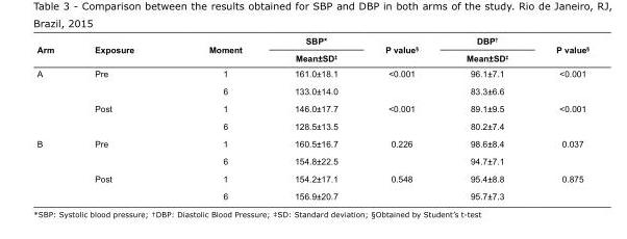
<table><tbody><tr><td rowspan="2">Arm</td><td rowspan="2">Exposure</td><td rowspan="2">Moment</td><td>SBP*</td><td rowspan="2">P value<sup>§</sup></td><td>DBP<sup>†</sup></td><td rowspan="2">P value<sup>§</sup></td></tr><tr><td>Mean±SD<sup>‡</sup></td><td>Mean±SD<sup>‡</sup></td></tr><tr><td rowspan="4">A</td><td rowspan="2">Pre</td><td>1</td><td>161.0±18.1</td><td rowspan="2">&lt;0.001</td><td>96.1±7.1</td><td rowspan="2">&lt;0.001</td></tr><tr><td>6</td><td>133.0±14.0</td><td>83.3±6.6</td></tr><tr><td rowspan="2">Post</td><td>1</td><td>146.0±17.7</td><td rowspan="2">&lt;0.001</td><td>89.1±9.5</td><td rowspan="2">&lt;0.001</td></tr><tr><td>6</td><td>128.5±13.5</td><td>80.2±7.4</td></tr><tr><td rowspan="4">B</td><td rowspan="2">Pre</td><td>1</td><td>160.5±16.7</td><td rowspan="2">0.226</td><td>98.6±8.4</td><td rowspan="2">0.037</td></tr><tr><td>6</td><td>154.8±22.5</td><td>94.7±7.1</td></tr><tr><td rowspan="2">Post</td><td>1</td><td>154.2±17.1</td><td rowspan="2">0.548</td><td>95.4±8.8</td><td rowspan="2">0.875</td></tr><tr><td>6</td><td>156.9±20.7</td><td>95.7±7.3</td></tr></tbody></table>